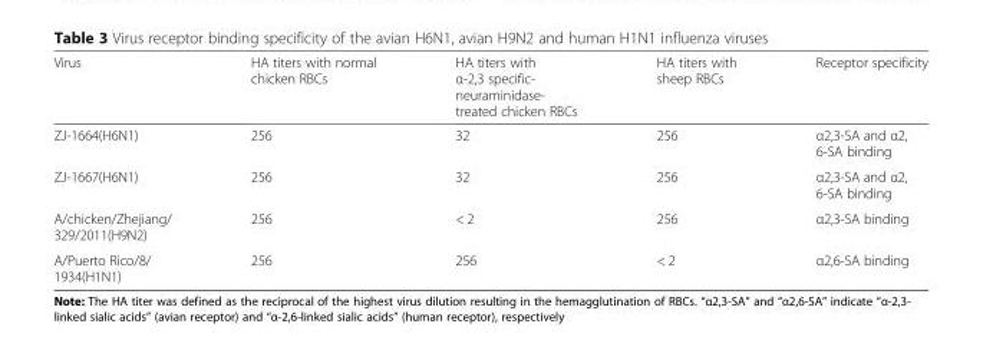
<table><thead><tr><td>Virus</td><td>HA titers with normal chicken RBCs</td><td>HA titers with α-2,3 specific- neuraminidase- treated chicken RBCs</td><td>HA titers with sheep RBCs</td><td>Receptor specificity</td></tr></thead><tbody><tr><td>ZJ-1664(H6N1)</td><td>256</td><td>32</td><td>256</td><td>α2,3-SA and α2, 6-SA binding</td></tr><tr><td>ZJ-1667(H6N1)</td><td>256</td><td>32</td><td>256</td><td>α2,3-SA and α2, 6-SA binding</td></tr><tr><td>A/chicken/Zhejiang/ 329/2011(H9N2)</td><td>256</td><td>&lt; 2</td><td>256</td><td>α2,3-SA binding</td></tr><tr><td>A/Puerto Rico/8/ 1934(H1N1)</td><td>256</td><td>256</td><td>&lt; 2</td><td>α2,6-SA binding</td></tr></tbody></table>